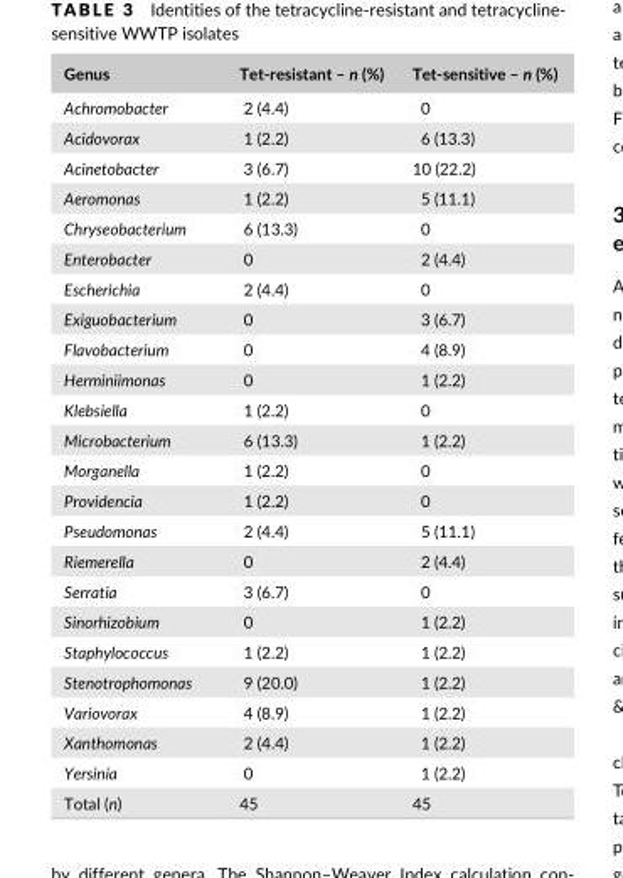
<table><thead><tr><td>Genus</td><td>Tet- resistant – n (%)</td><td>Tet- sensitive – n (%)</td></tr></thead><tbody><tr><td>Achromobacter</td><td>2 (4.4)</td><td>0</td></tr><tr><td>Acidovorax</td><td>1 (2.2)</td><td>6 (13.3)</td></tr><tr><td>Acinetobacter</td><td>3 (6.7)</td><td>10 (22.2)</td></tr><tr><td>Aeromonas</td><td>1 (2.2)</td><td>5 (11.1)</td></tr><tr><td>Chryseobacterium</td><td>6 (13.3)</td><td>0</td></tr><tr><td>Enterobacter</td><td>0</td><td>2 (4.4)</td></tr><tr><td>Escherichia</td><td>2 (4.4)</td><td>0</td></tr><tr><td>Exiguobacterium</td><td>0</td><td>3 (6.7)</td></tr><tr><td>Flavobacterium</td><td>0</td><td>4 (8.9)</td></tr><tr><td>Herminiimonas</td><td>0</td><td>1 (2.2)</td></tr><tr><td>Klebsiella</td><td>1 (2.2)</td><td>0</td></tr><tr><td>Microbacterium</td><td>6 (13.3)</td><td>1 (2.2)</td></tr><tr><td>Morganella</td><td>1 (2.2)</td><td>0</td></tr><tr><td>Providencia</td><td>1 (2.2)</td><td>0</td></tr><tr><td>Pseudomonas</td><td>2 (4.4)</td><td>5 (11.1)</td></tr><tr><td>Riemerella</td><td>0</td><td>2 (4.4)</td></tr><tr><td>Serratia</td><td>3 (6.7)</td><td>0</td></tr><tr><td>Sinorhizobium</td><td>0</td><td>1 (2.2)</td></tr><tr><td>Staphylococcus</td><td>1 (2.2)</td><td>1 (2.2)</td></tr><tr><td>Stenotrophomonas</td><td>9 (20.0)</td><td>1 (2.2)</td></tr><tr><td>Variovorax</td><td>4 (8.9)</td><td>1 (2.2)</td></tr><tr><td>Xanthomonas</td><td>2 (4.4)</td><td>1 (2.2)</td></tr><tr><td>Yersinia</td><td>0</td><td>1 (2.2)</td></tr><tr><td>Total (n)</td><td>45</td><td>45</td></tr></tbody></table>